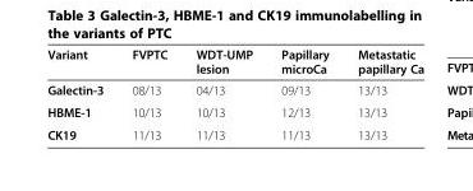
<table><thead><tr><td>Variant</td><td>FVPTC</td><td>WDT-UMP lesion</td><td>Papillary microCa</td><td>Metastatic papillary Ca</td></tr></thead><tbody><tr><td>Galectin-3</td><td>08/13</td><td>04/13</td><td>09/13</td><td>13/13</td></tr><tr><td>HBME-1</td><td>10/13</td><td>10/13</td><td>12/13</td><td>13/13</td></tr><tr><td>CK19</td><td>11/13</td><td>11/13</td><td>11/13</td><td>13/13</td></tr></tbody></table>